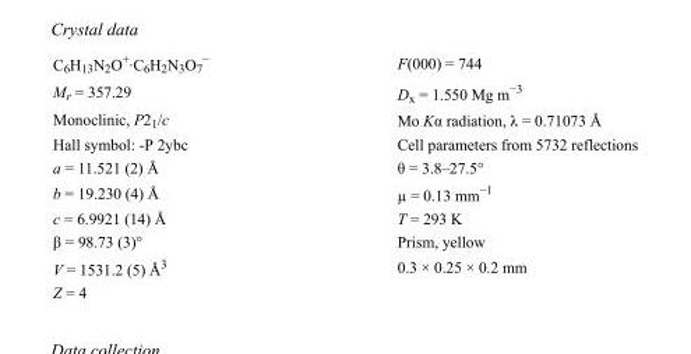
<table><tbody><tr><td>C<sub>6</sub>H<sub>13</sub>N<sub>2</sub>O<sup>+</sup>·C<sub>6</sub>H<sub>2</sub>N<sub>3</sub>O<sub>7</sub> <sup>−</sup></td><td>F(000) = 744</td></tr><tr><td>M<sub>r</sub> = 357.29</td><td>D<sub>x</sub> = 1.550 Mg m<sup>−3</sup></td></tr><tr><td>Monoclinic, P2<sub>1</sub>/c</td><td>Mo Kα radiation, λ = 0.71073 Å</td></tr><tr><td>Hall symbol: -P 2ybc</td><td>Cell parameters from 5732 reflections</td></tr><tr><td>a = 11.521 (2) Å</td><td>θ = 3.8–27.5°</td></tr><tr><td>b = 19.230 (4) Å</td><td>µ = 0.13 mm<sup>−1</sup></td></tr><tr><td>c = 6.9921 (14) Å</td><td>T = 293 K</td></tr><tr><td>β = 98.73 (3)°</td><td>Prism, yellow</td></tr><tr><td>V = 1531.2 (5) Å<sup>3</sup></td><td>0.3 × 0.25 × 0.2 mm</td></tr><tr><td>Z = 4</td><td></td></tr></tbody></table>